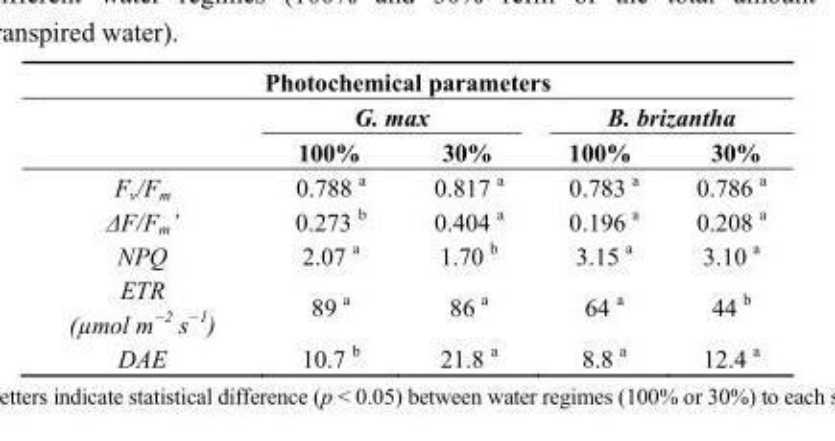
<table><thead><tr><td colspan="5">Photochemical parameters</td></tr><tr><td rowspan="2"></td><td colspan="2">G. max</td><td colspan="2">B. brizantha</td></tr><tr><td>100%</td><td>30%</td><td>100%</td><td>30%</td></tr></thead><tbody><tr><td>F<sub>v</sub>/F<sub>m</sub></td><td>0.788 <sup>a</sup></td><td>0.817 <sup>a</sup></td><td>0.783 <sup>a</sup></td><td>0.786 <sup>a</sup></td></tr><tr><td>ΔF/F<sub>m</sub>’</td><td>0.273 <sup>b</sup></td><td>0.404 <sup>a</sup></td><td>0.196 <sup>a</sup></td><td>0.208 <sup>a</sup></td></tr><tr><td>NPQ</td><td>2.07 <sup>a</sup></td><td>1.70 <sup>b</sup></td><td>3.15 <sup>a</sup></td><td>3.10 <sup>a</sup></td></tr><tr><td>ETR (µmol m<sup>−2</sup> s<sup>−1</sup>)</td><td>89 <sup>a</sup></td><td>86 <sup>a</sup></td><td>64 <sup>a</sup></td><td>44 <sup>b</sup></td></tr><tr><td>DAE</td><td>10.7 <sup>b</sup></td><td>21.8 <sup>a</sup></td><td>8.8 <sup>a</sup></td><td>12.4 <sup>a</sup></td></tr></tbody></table>